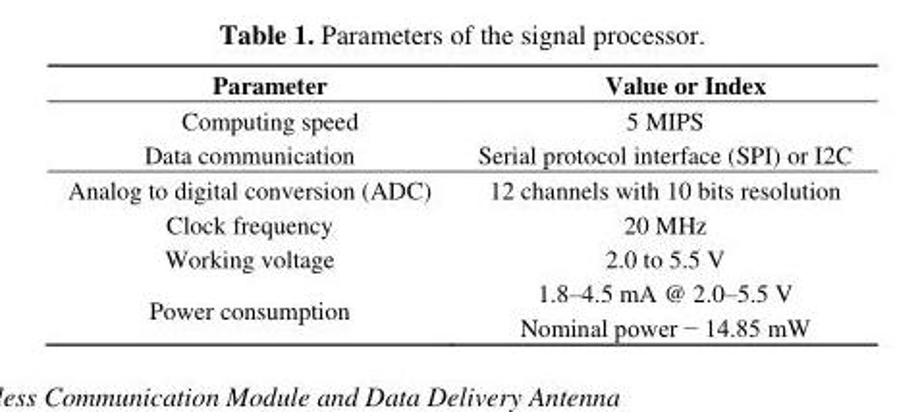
<table><thead><tr><td>Parameter</td><td>Value or Index</td></tr></thead><tbody><tr><td>Computing speed</td><td>5 MIPS</td></tr><tr><td>Data communication</td><td>Serial protocol interface (SPI) or I2C</td></tr><tr><td>Analog to digital conversion (ADC)</td><td>12 channels with 10 bits resolution</td></tr><tr><td>Clock frequency</td><td>20 MHz</td></tr><tr><td>Working voltage</td><td>2.0 to 5.5 V</td></tr><tr><td>Power consumption</td><td>1.8–4.5 mA @ 2.0–5.5 V Nominal power − 14.85 mW</td></tr></tbody></table>